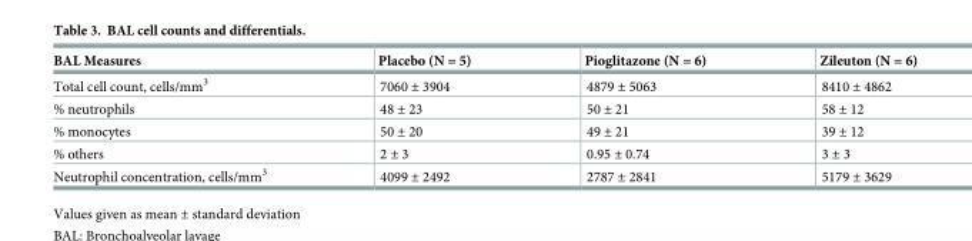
<table><thead><tr><td>BAL Measures</td><td>Placebo (N = 5)</td><td>Pioglitazone (N = 6)</td><td>Zileuton (N = 6)</td></tr></thead><tbody><tr><td>Total cell count, cells/mm<sup>3</sup></td><td>7060 ± 3904</td><td>4879 ± 5063</td><td>8410 ± 4862</td></tr><tr><td>% neutrophils</td><td>48 ± 23</td><td>50 ± 21</td><td>58 ± 12</td></tr><tr><td>% monocytes</td><td>50 ± 20</td><td>49 ± 21</td><td>39 ± 12</td></tr><tr><td>% others</td><td>2 ± 3</td><td>0.95 ± 0.74</td><td>3 ± 3</td></tr><tr><td>Neutrophil concentration, cells/mm<sup>3</sup></td><td>4099 ± 2492</td><td>2787 ± 2841</td><td>5179 ± 3629</td></tr></tbody></table>